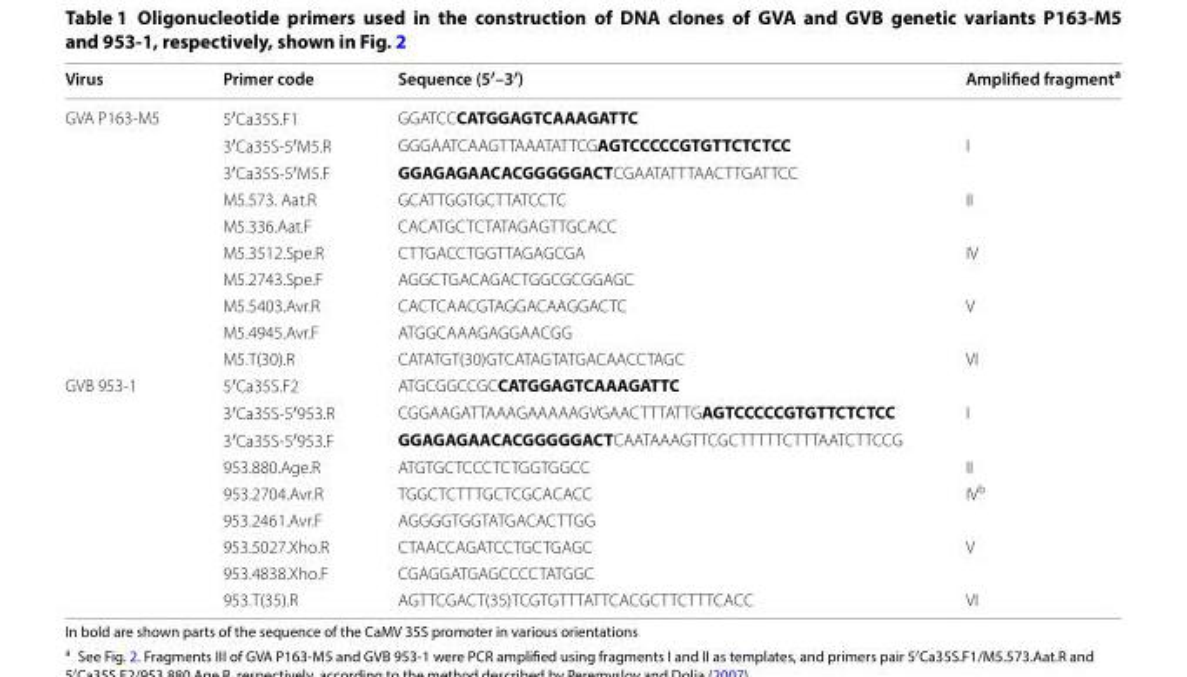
<table><thead><tr><td>Virus</td><td>Primer code</td><td>Sequence (5′–3′)</td><td>Amplified fragment<sup>a</sup></td></tr></thead><tbody><tr><td rowspan="10">GVA P163-M5</td><td>5′Ca35S.F1</td><td>GGATCCCATGGAGTCAAAGATTC</td><td></td></tr><tr><td>3′Ca35S-5′M5.R</td><td>GGGAATCAAGTTAAATATTCGAGTCCCCCGTGTTCTCTCC</td><td>I</td></tr><tr><td>3′Ca35S-5′M5.F</td><td>GGAGAGAACACGGGGGACTCGAATATTTAACTTGATTCC</td><td></td></tr><tr><td>M5.573. Aat.R</td><td>GCATTGGTGCTTATCCTC</td><td>II</td></tr><tr><td>M5.336.Aat.F</td><td>CACATGCTCTATAGAGTTGCACC</td><td></td></tr><tr><td>M5.3512.Spe.R</td><td>CTTGACCTGGTTAGAGCGA</td><td>IV</td></tr><tr><td>M5.2743.Spe.F</td><td>AGGCTGACAGACTGGCGCGGAGC</td><td></td></tr><tr><td>M5.5403.Avr.R</td><td>CACTCAACGTAGGACAAGGACTC</td><td>V</td></tr><tr><td>M5.4945.Avr.F</td><td>ATGGCAAAGAGGAACGG</td><td></td></tr><tr><td>M5.T(30).R</td><td>CATATGT(30)GTCATAGTATGACAACCTAGC</td><td>VI</td></tr><tr><td rowspan="9">GVB 953-1</td><td>5′Ca35S.F2</td><td>ATGCGGCCGCCATGGAGTCAAAGATTC</td><td></td></tr><tr><td>3′Ca35S-5′953.R</td><td>CGGAAGATTAAAGAAAAAGVGAACTTTATTGAGTCCCCCGTGTTCTCTCC</td><td>I</td></tr><tr><td>3′Ca35S-5′953.F</td><td>GGAGAGAACACGGGGGACTCAATAAAGTTCGCTTTTTCTTTAATCTTCCG</td><td></td></tr><tr><td>953.880.Age.R</td><td>ATGTGCTCCCTCTGGTGGCC</td><td>II</td></tr><tr><td>953.2704.Avr.R</td><td>TGGCTCTTTGCTCGCACACC</td><td>IV<sup>b</sup></td></tr><tr><td>953.2461.Avr.F</td><td>AGGGGTGGTATGACACTTGG</td><td></td></tr><tr><td>953.5027.Xho.R</td><td>CTAACCAGATCCTGCTGAGC</td><td>V</td></tr><tr><td>953.4838.Xho.F</td><td>CGAGGATGAGCCCCTATGGC</td><td></td></tr><tr><td>953.T(35).R</td><td>AGTTCGACT(35)TCGTGTTTATTCACGCTTCTTTCACC</td><td>VI</td></tr></tbody></table>